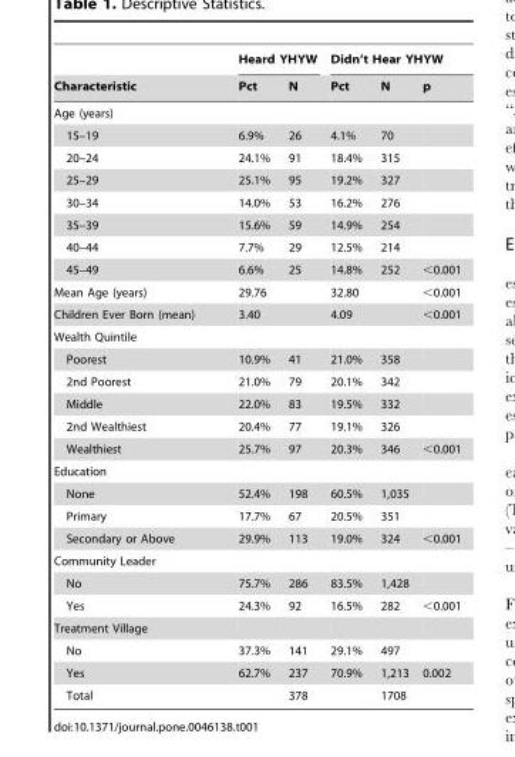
<table><thead><tr><td rowspan="2">Characteristic</td><td colspan="2">Heard YHYW</td><td colspan="3">Didn’t Hear YHYW</td></tr><tr><td>Pct</td><td>N</td><td>Pct</td><td>N</td><td>p</td></tr></thead><tbody><tr><td colspan="6">Age (years)</td></tr><tr><td>15–19</td><td>6.9%</td><td>26</td><td>4.1%</td><td>70</td><td></td></tr><tr><td>20–24</td><td>24.1%</td><td>91</td><td>18.4%</td><td>315</td><td></td></tr><tr><td>25–29</td><td>25.1%</td><td>95</td><td>19.2%</td><td>327</td><td></td></tr><tr><td>30–34</td><td>14.0%</td><td>53</td><td>16.2%</td><td>276</td><td></td></tr><tr><td>35–39</td><td>15.6%</td><td>59</td><td>14.9%</td><td>254</td><td></td></tr><tr><td>40–44</td><td>7.7%</td><td>29</td><td>12.5%</td><td>214</td><td></td></tr><tr><td>45–49</td><td>6.6%</td><td>25</td><td>14.8%</td><td>252</td><td>&lt;0.001</td></tr><tr><td>Mean Age (years)</td><td>29.76</td><td></td><td>32.80</td><td></td><td>&lt;0.001</td></tr><tr><td>Children Ever Born (mean)</td><td>3.40</td><td></td><td>4.09</td><td></td><td>&lt;0.001</td></tr><tr><td colspan="6">Wealth Quintile</td></tr><tr><td>Poorest</td><td>10.9%</td><td>41</td><td>21.0%</td><td>358</td><td></td></tr><tr><td>2nd Poorest</td><td>21.0%</td><td>79</td><td>20.1%</td><td>342</td><td></td></tr><tr><td>Middle</td><td>22.0%</td><td>83</td><td>19.5%</td><td>332</td><td></td></tr><tr><td>2nd Wealthiest</td><td>20.4%</td><td>77</td><td>19.1%</td><td>326</td><td></td></tr><tr><td>Wealthiest</td><td>25.7%</td><td>97</td><td>20.3%</td><td>346</td><td>&lt;0.001</td></tr><tr><td colspan="6">Education</td></tr><tr><td>None</td><td>52.4%</td><td>198</td><td>60.5%</td><td>1,035</td><td></td></tr><tr><td>Primary</td><td>17.7%</td><td>67</td><td>20.5%</td><td>351</td><td></td></tr><tr><td>Secondary or Above</td><td>29.9%</td><td>113</td><td>19.0%</td><td>324</td><td>&lt;0.001</td></tr><tr><td colspan="6">Community Leader</td></tr><tr><td>No</td><td>75.7%</td><td>286</td><td>83.5%</td><td>1,428</td><td></td></tr><tr><td>Yes</td><td>24.3%</td><td>92</td><td>16.5%</td><td>282</td><td>&lt;0.001</td></tr><tr><td colspan="6">Treatment Village</td></tr><tr><td>No</td><td>37.3%</td><td>141</td><td>29.1%</td><td>497</td><td></td></tr><tr><td>Yes</td><td>62.7%</td><td>237</td><td>70.9%</td><td>1,213</td><td>0.002</td></tr><tr><td>Total</td><td></td><td>378</td><td></td><td>1708</td><td></td></tr></tbody></table>